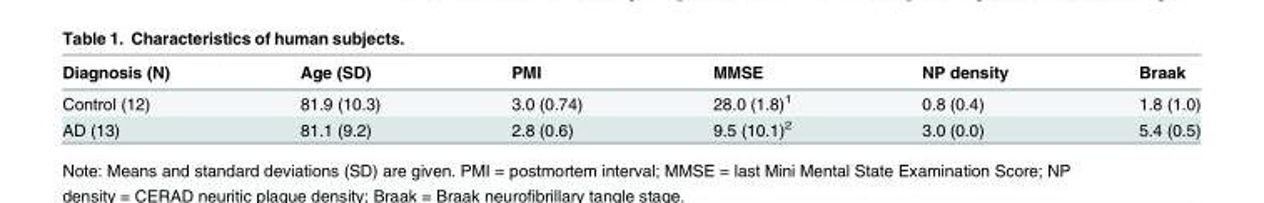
<table><thead><tr><td>Diagnosis (N)</td><td>Age (SD)</td><td>PMI</td><td>MMSE</td><td>NP density</td><td>Braak</td></tr></thead><tbody><tr><td>Control (12)</td><td>81.9 (10.3)</td><td>3.0 (0.74)</td><td>28.0 (1.8)<sup>1</sup></td><td>0.8 (0.4)</td><td>1.8 (1.0)</td></tr><tr><td>AD (13)</td><td>81.1 (9.2)</td><td>2.8 (0.6)</td><td>9.5 (10.1)<sup>2</sup></td><td>3.0 (0.0)</td><td>5.4 (0.5)</td></tr></tbody></table>